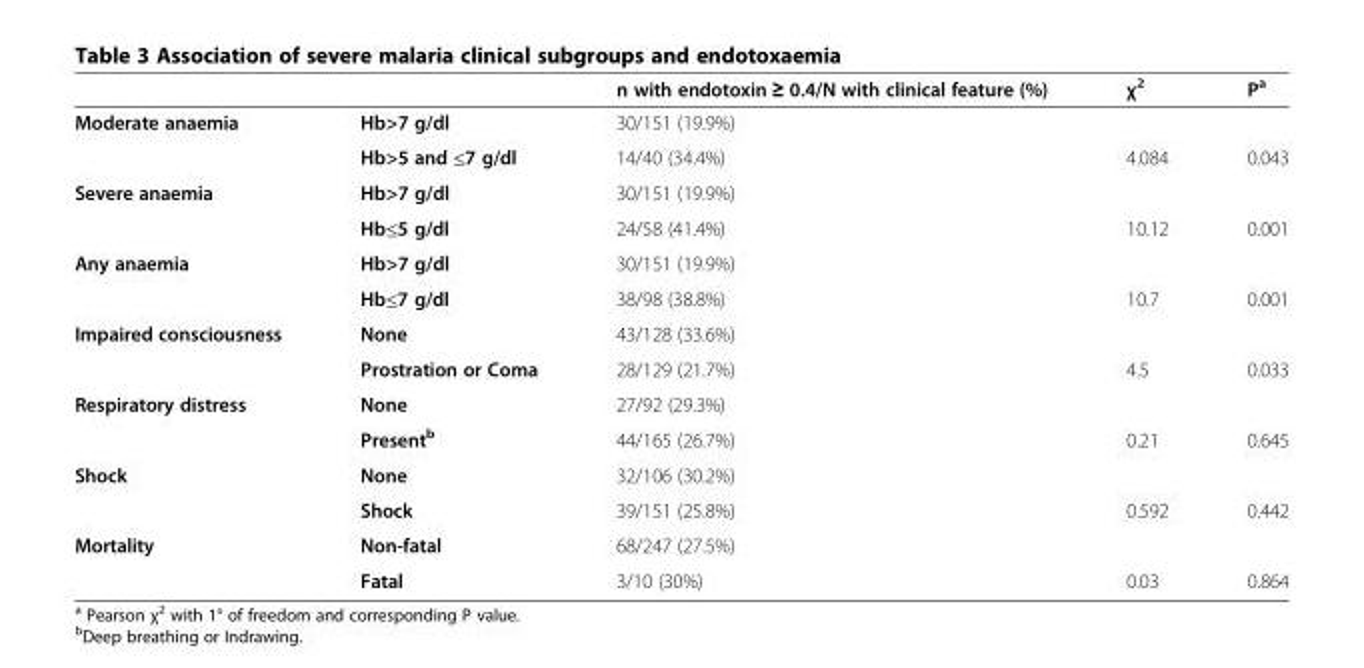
<table><thead><tr><td></td><td></td><td>n with endotoxin ≥ 0.4/N with clinical feature (%)</td><td>χ<sup>2</sup></td><td>P<sup>a</sup></td></tr></thead><tbody><tr><td rowspan="2">Moderate anaemia</td><td>Hb&gt;7 g/dl</td><td>30/151 (19.9%)</td><td></td><td></td></tr><tr><td>Hb&gt;5 and ≤7 g/dl</td><td>14/40 (34.4%)</td><td>4.084</td><td>0.043</td></tr><tr><td rowspan="2">Severe anaemia</td><td>Hb&gt;7 g/dl</td><td>30/151 (19.9%)</td><td></td><td></td></tr><tr><td>Hb≤5 g/dl</td><td>24/58 (41.4%)</td><td>10.12</td><td>0.001</td></tr><tr><td rowspan="2">Any anaemia</td><td>Hb&gt;7 g/dl</td><td>30/151 (19.9%)</td><td></td><td></td></tr><tr><td>Hb≤7 g/dl</td><td>38/98 (38.8%)</td><td>10.7</td><td>0.001</td></tr><tr><td rowspan="2">Impaired consciousness</td><td>None</td><td>43/128 (33.6%)</td><td></td><td></td></tr><tr><td>Prostration or Coma</td><td>28/129 (21.7%)</td><td>4.5</td><td>0.033</td></tr><tr><td rowspan="2">Respiratory distress</td><td>None</td><td>27/92 (29.3%)</td><td></td><td></td></tr><tr><td>Present<sup>b</sup></td><td>44/165 (26.7%)</td><td>0.21</td><td>0.645</td></tr><tr><td rowspan="2">Shock</td><td>None</td><td>32/106 (30.2%)</td><td></td><td></td></tr><tr><td>Shock</td><td>39/151 (25.8%)</td><td>0.592</td><td>0.442</td></tr><tr><td rowspan="2">Mortality</td><td>Non-fatal</td><td>68/247 (27.5%)</td><td></td><td></td></tr><tr><td>Fatal</td><td>3/10 (30%)</td><td>0.03</td><td>0.864</td></tr></tbody></table>